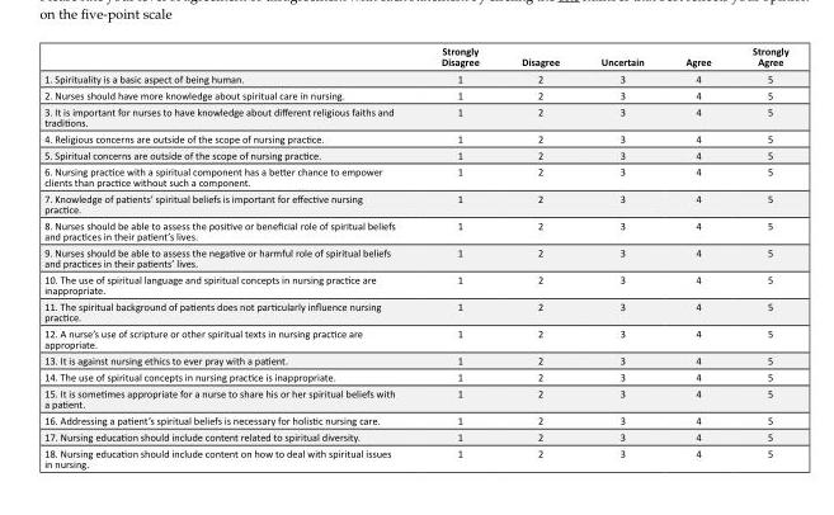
<table><thead><tr><td></td><td>Strongly Disagree</td><td>Disagree</td><td>Uncertain</td><td>Agree</td><td>Strongly Agree</td></tr></thead><tbody><tr><td>1. Spirituality is a basic aspect of being human.</td><td>1</td><td>2</td><td>3</td><td>4</td><td>5</td></tr><tr><td>2. Nurses should have more knowledge about spiritual care in nursing.</td><td>1</td><td>2</td><td>3</td><td>4</td><td>5</td></tr><tr><td>3. It is important for nurses to have knowledge about different religious faiths and traditions.</td><td>1</td><td>2</td><td>3</td><td>4</td><td>5</td></tr><tr><td>4. Religious concerns are outside of the scope of nursing practice.</td><td>1</td><td>2</td><td>3</td><td>4</td><td>5</td></tr><tr><td>5. Spiritual concerns are outside of the scope of nursing practice.</td><td>1</td><td>2</td><td>3</td><td>4</td><td>5</td></tr><tr><td>6. Nursing practice with a spiritual component has a better chance to empower clients than practice without such a component.</td><td>1</td><td>2</td><td>3</td><td>4</td><td>5</td></tr><tr><td>7. Knowledge of patients’ spiritual beliefs is important for effective nursing practice.</td><td>1</td><td>2</td><td>3</td><td>4</td><td>5</td></tr><tr><td>8. Nurses should be able to assess the positive or beneficial role of spiritual beliefs and practices in their patient’s lives.</td><td>1</td><td>2</td><td>3</td><td>4</td><td>5</td></tr><tr><td>9. Nurses should be able to assess the negative or harmful role of spiritual beliefs and practices in their patients’ lives.</td><td>1</td><td>2</td><td>3</td><td>4</td><td>5</td></tr><tr><td>10. The use of spiritual language and spiritual concepts in nursing practice are inappropriate.</td><td>1</td><td>2</td><td>3</td><td>4</td><td>5</td></tr><tr><td>11. The spiritual background of patients does not particularly influence nursing practice.</td><td>1</td><td>2</td><td>3</td><td>4</td><td>5</td></tr><tr><td>12. A nurse’s use of scripture or other spiritual texts in nursing practice are appropriate.</td><td>1</td><td>2</td><td>3</td><td>4</td><td>5</td></tr><tr><td>13. It is against nursing ethics to ever pray with a patient.</td><td>1</td><td>2</td><td>3</td><td>4</td><td>5</td></tr><tr><td>14. The use of spiritual concepts in nursing practice is inappropriate.</td><td>1</td><td>2</td><td>3</td><td>4</td><td>5</td></tr><tr><td>15. It is sometimes appropriate for a nurse to share his or her spiritual beliefs with a patient.</td><td>1</td><td>2</td><td>3</td><td>4</td><td>5</td></tr><tr><td>16. Addressing a patient’s spiritual beliefs is necessary for holistic nursing care.</td><td>1</td><td>2</td><td>3</td><td>4</td><td>5</td></tr><tr><td>17. Nursing education should include content related to spiritual diversity.</td><td>1</td><td>2</td><td>3</td><td>4</td><td>5</td></tr><tr><td>18. Nursing education should include content on how to deal with spiritual issues in nursing.</td><td>1</td><td>2</td><td>3</td><td>4</td><td>5</td></tr></tbody></table>